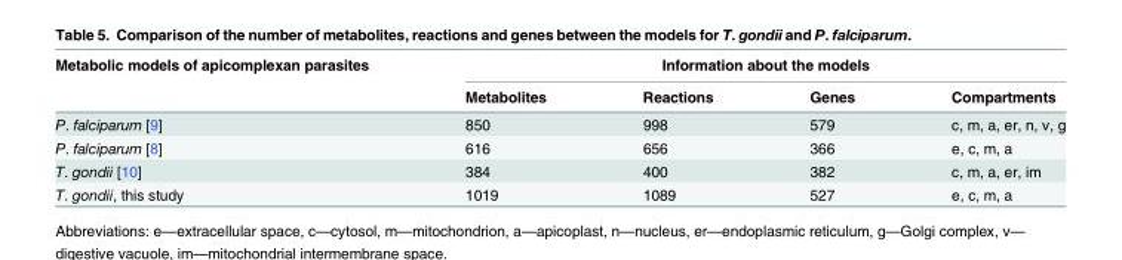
<table><thead><tr><td rowspan="2">Metabolic models of apicomplexan parasites</td><td colspan="4">Information about the models</td></tr><tr><td>Metabolites</td><td>Reactions</td><td>Genes</td><td>Compartments</td></tr></thead><tbody><tr><td>P. falciparum [9]</td><td>850</td><td>998</td><td>579</td><td>c, m, a, er, n, v, g</td></tr><tr><td>P. falciparum [8]</td><td>616</td><td>656</td><td>366</td><td>e, c, m, a</td></tr><tr><td>T. gondii [10]</td><td>384</td><td>400</td><td>382</td><td>c, m, a, er, im</td></tr><tr><td>T. gondii, this study</td><td>1019</td><td>1089</td><td>527</td><td>e, c, m, a</td></tr></tbody></table>